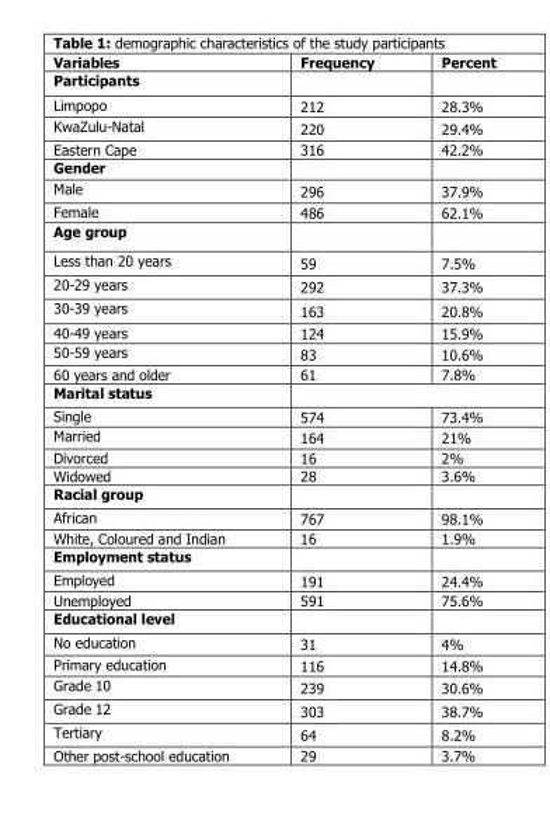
<table><thead><tr><td>Variables</td><td>Frequency</td><td>Percent</td></tr></thead><tbody><tr><td colspan="3">Participants</td></tr><tr><td>Limpopo</td><td>212</td><td>28.3%</td></tr><tr><td>KwaZulu-Natal</td><td>220</td><td>29.4%</td></tr><tr><td>Eastern Cape</td><td>316</td><td>42.2%</td></tr><tr><td colspan="3">Gender</td></tr><tr><td>Male</td><td>296</td><td>37.9%</td></tr><tr><td>Female</td><td>486</td><td>62.1%</td></tr><tr><td colspan="3">Age group</td></tr><tr><td>Less than 20 years</td><td>59</td><td>7.5%</td></tr><tr><td>20-29 years</td><td>292</td><td>37.3%</td></tr><tr><td>30-39 years</td><td>163</td><td>20.8%</td></tr><tr><td>40-49 years</td><td>124</td><td>15.9%</td></tr><tr><td>50-59 years</td><td>83</td><td>10.6%</td></tr><tr><td>60 years and older</td><td>61</td><td>7.8%</td></tr><tr><td colspan="3">Marital status</td></tr><tr><td>Single</td><td>574</td><td>73.4%</td></tr><tr><td>Married</td><td>164</td><td>21%</td></tr><tr><td>Divorced</td><td>16</td><td>2%</td></tr><tr><td>Widowed</td><td>28</td><td>3.6%</td></tr><tr><td colspan="3">Racial group</td></tr><tr><td>African</td><td>767</td><td>98.1%</td></tr><tr><td>White, Coloured and Indian</td><td>16</td><td>1.9%</td></tr><tr><td colspan="3">Employment status</td></tr><tr><td>Employed</td><td>191</td><td>24.4%</td></tr><tr><td>Unemployed</td><td>591</td><td>75.6%</td></tr><tr><td colspan="3">Educational level</td></tr><tr><td>No education</td><td>31</td><td>4%</td></tr><tr><td>Primary education</td><td>116</td><td>14.8%</td></tr><tr><td>Grade 10</td><td>239</td><td>30.6%</td></tr><tr><td>Grade 12</td><td>303</td><td>38.7%</td></tr><tr><td>Tertiary</td><td>64</td><td>8.2%</td></tr><tr><td>Other post-school education</td><td>29</td><td>3.7%</td></tr></tbody></table>